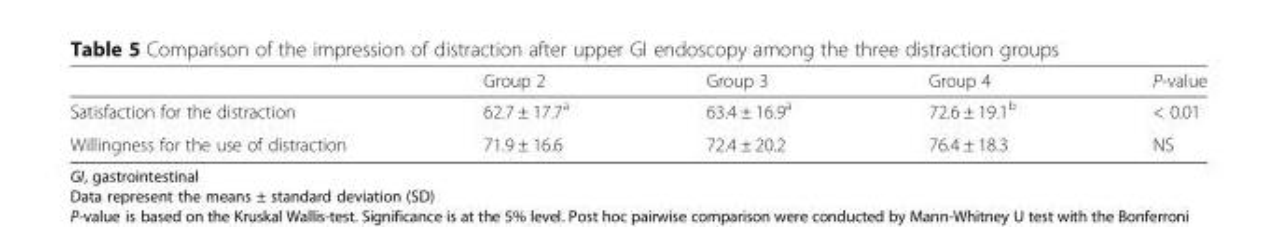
<table><thead><tr><td></td><td>Group 2</td><td>Group 3</td><td>Group 4</td><td>P-value</td></tr></thead><tbody><tr><td>Satisfaction for the distraction</td><td>62.7 ± 17.7<sup>a</sup></td><td>63.4 ± 16.9<sup>a</sup></td><td>72.6 ± 19.1<sup>b</sup></td><td>&lt; 0.01</td></tr><tr><td>Willingness for the use of distraction</td><td>71.9 ± 16.6</td><td>72.4 ± 20.2</td><td>76.4 ± 18.3</td><td>NS</td></tr></tbody></table>